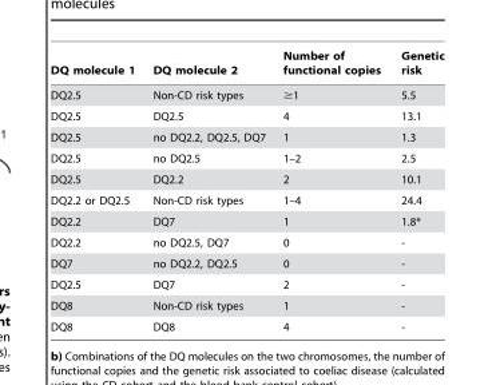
<table><thead><tr><td>DQ molecule 1</td><td>DQ molecule 2</td><td>Number of functional copies</td><td>Genetic risk</td></tr></thead><tbody><tr><td>DQ2.5</td><td>Non-CD risk types</td><td>≥1</td><td>5.5</td></tr><tr><td>DQ2.5</td><td>DQ2.5</td><td>4</td><td>13.1</td></tr><tr><td>DQ2.5</td><td>no DQ2.2, DQ2.5, DQ7</td><td>1</td><td>1.3</td></tr><tr><td>DQ2.5</td><td>no DQ2.5</td><td>1–2</td><td>2.5</td></tr><tr><td>DQ2.5</td><td>DQ2.2</td><td>2</td><td>10.1</td></tr><tr><td>DQ2.2 or DQ2.5</td><td>Non-CD risk types</td><td>1–4</td><td>24.4</td></tr><tr><td>DQ2.2</td><td>DQ7</td><td>1</td><td>1.8*</td></tr><tr><td>DQ2.2</td><td>no DQ2.5, DQ7</td><td>0</td><td>-</td></tr><tr><td>DQ7</td><td>no DQ2.2, DQ2.5</td><td>0</td><td>-</td></tr><tr><td>DQ2.5</td><td>DQ7</td><td>2</td><td>-</td></tr><tr><td>DQ8</td><td>Non-CD risk types</td><td>1</td><td>-</td></tr><tr><td>DQ8</td><td>DQ8</td><td>4</td><td>-</td></tr></tbody></table>